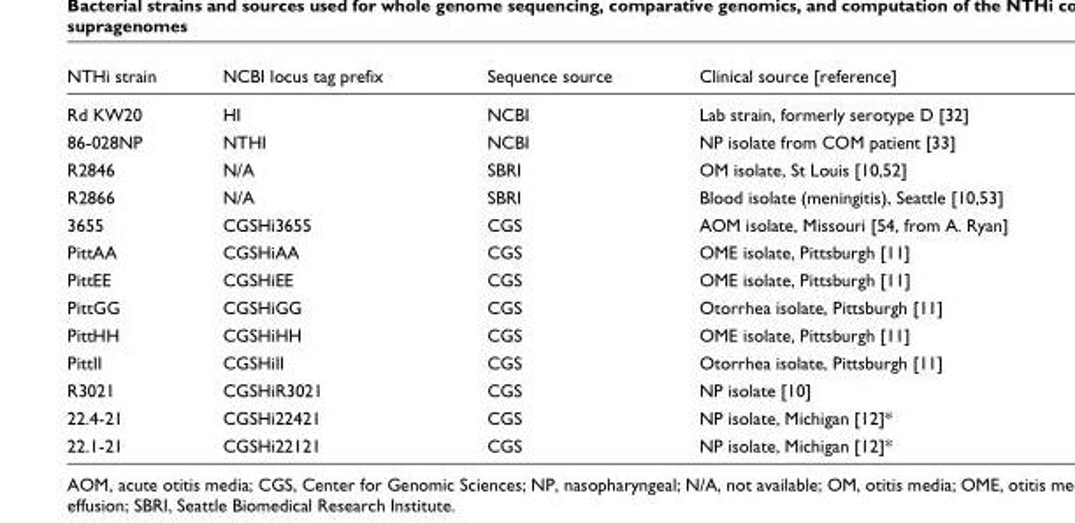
<table><thead><tr><td>NTHi strain</td><td>NCBI locus tag prefix</td><td>Sequence source</td><td>Clinical source [reference]</td></tr></thead><tbody><tr><td>Rd KW20</td><td>HI</td><td>NCBI</td><td>Lab strain, formerly serotype D [32]</td></tr><tr><td>86-028NP</td><td>NTHI</td><td>NCBI</td><td>NP isolate from COM patient [33]</td></tr><tr><td>R2846</td><td>N/A</td><td>SBRI</td><td>OM isolate, St Louis [10,52]</td></tr><tr><td>R2866</td><td>N/A</td><td>SBRI</td><td>Blood isolate (meningitis), Seattle [10,53]</td></tr><tr><td>3655</td><td>CGSHi3655</td><td>CGS</td><td>AOM isolate, Missouri [54, from A. Ryan]</td></tr><tr><td>PittAA</td><td>CGSHiAA</td><td>CGS</td><td>OME isolate, Pittsburgh [11]</td></tr><tr><td>PittEE</td><td>CGSHiEE</td><td>CGS</td><td>OME isolate, Pittsburgh [11]</td></tr><tr><td>PittGG</td><td>CGSHiGG</td><td>CGS</td><td>Otorrhea isolate, Pittsburgh [11]</td></tr><tr><td>PittHH</td><td>CGSHiHH</td><td>CGS</td><td>OME isolate, Pittsburgh [11]</td></tr><tr><td>PittII</td><td>CGSHiII</td><td>CGS</td><td>Otorrhea isolate, Pittsburgh [11]</td></tr><tr><td>R3021</td><td>CGSHiR3021</td><td>CGS</td><td>NP isolate [10]</td></tr><tr><td>22.4-21</td><td>CGSHi22421</td><td>CGS</td><td>NP isolate, Michigan [12]*</td></tr><tr><td>22.1-21</td><td>CGSHi22121</td><td>CGS</td><td>NP isolate, Michigan [12]*</td></tr></tbody></table>